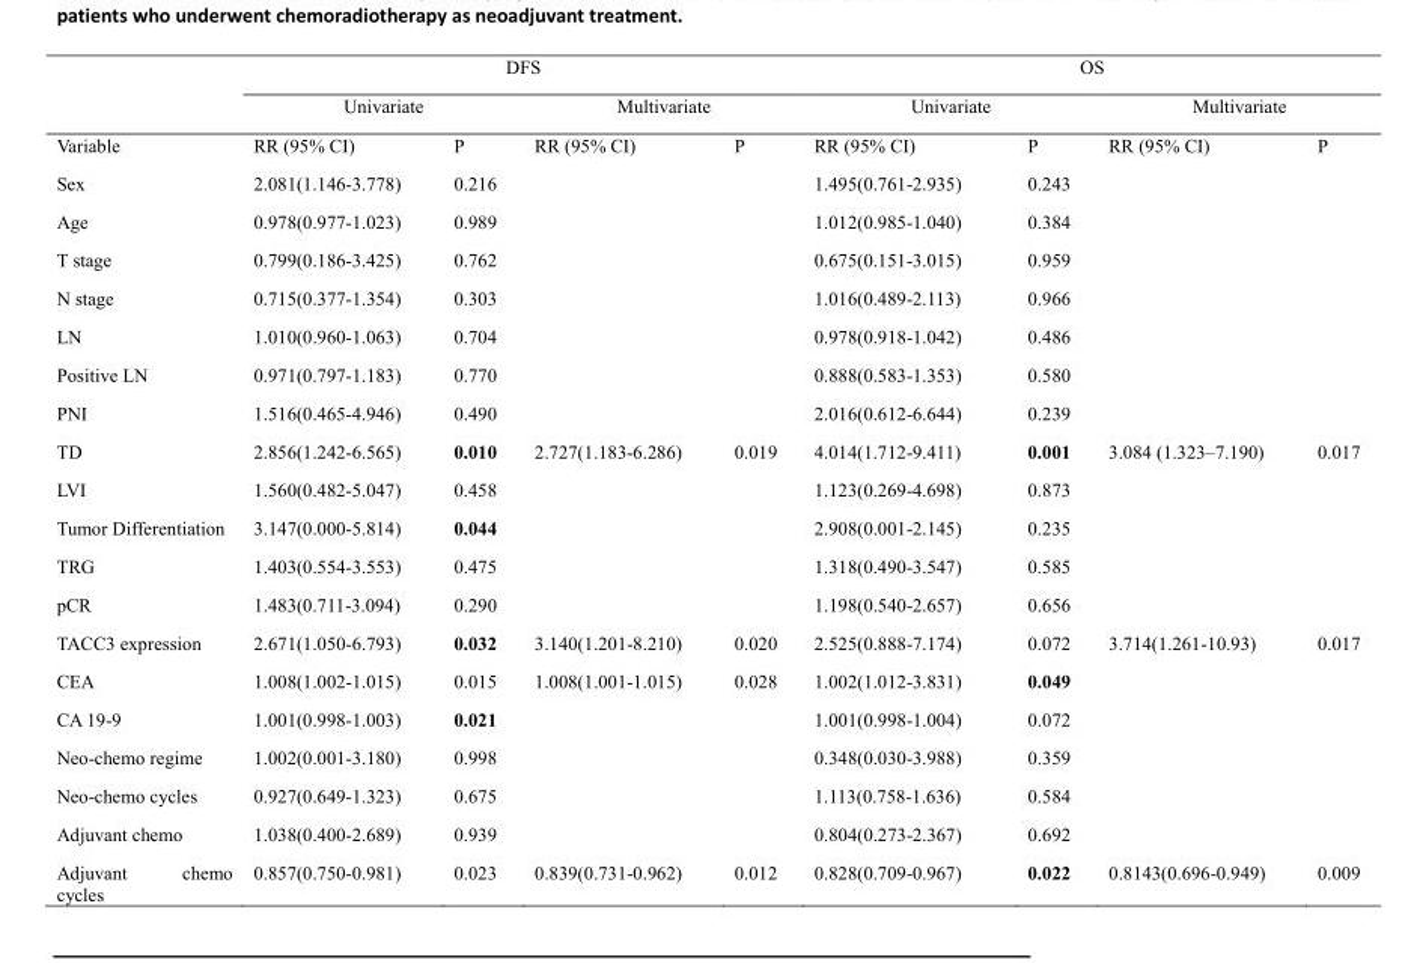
<table><thead><tr><td rowspan="3">Variable</td><td colspan="4">DFS</td><td colspan="4">OS</td></tr><tr><td colspan="2">Univariate</td><td colspan="2">Multivariate</td><td colspan="2">Univariate</td><td colspan="2">Multivariate</td></tr><tr><td>RR (95% CI)</td><td>P</td><td>RR (95% CI)</td><td>P</td><td>RR (95% CI)</td><td>P</td><td>RR (95% CI)</td><td>P</td></tr></thead><tbody><tr><td>Sex</td><td>2.081(1.146-3.778)</td><td>0.216</td><td></td><td></td><td>1.495(0.761-2.935)</td><td>0.243</td><td></td><td></td></tr><tr><td>Age</td><td>0.978(0.977-1.023)</td><td>0.989</td><td></td><td></td><td>1.012(0.985-1.040)</td><td>0.384</td><td></td><td></td></tr><tr><td>T stage</td><td>0.799(0.186-3.425)</td><td>0.762</td><td></td><td></td><td>0.675(0.151-3.015)</td><td>0.959</td><td></td><td></td></tr><tr><td>N stage</td><td>0.715(0.377-1.354)</td><td>0.303</td><td></td><td></td><td>1.016(0.489-2.113)</td><td>0.966</td><td></td><td></td></tr><tr><td>LN</td><td>1.010(0.960-1.063)</td><td>0.704</td><td></td><td></td><td>0.978(0.918-1.042)</td><td>0.486</td><td></td><td></td></tr><tr><td>Positive LN</td><td>0.971(0.797-1.183)</td><td>0.770</td><td></td><td></td><td>0.888(0.583-1.353)</td><td>0.580</td><td></td><td></td></tr><tr><td>PNI</td><td>1.516(0.465-4.946)</td><td>0.490</td><td></td><td></td><td>2.016(0.612-6.644)</td><td>0.239</td><td></td><td></td></tr><tr><td>TD</td><td>2.856(1.242-6.565)</td><td>0.010</td><td>2.727(1.183-6.286)</td><td>0.019</td><td>4.014(1.712-9.411)</td><td>0.001</td><td>3.084 (1.323–7.190)</td><td>0.017</td></tr><tr><td>LVI</td><td>1.560(0.482-5.047)</td><td>0.458</td><td></td><td></td><td>1.123(0.269-4.698)</td><td>0.873</td><td></td><td></td></tr><tr><td>Tumor Differentiation</td><td>3.147(0.000-5.814)</td><td>0.044</td><td></td><td></td><td>2.908(0.001-2.145)</td><td>0.235</td><td></td><td></td></tr><tr><td>TRG</td><td>1.403(0.554-3.553)</td><td>0.475</td><td></td><td></td><td>1.318(0.490-3.547)</td><td>0.585</td><td></td><td></td></tr><tr><td>pCR</td><td>1.483(0.711-3.094)</td><td>0.290</td><td></td><td></td><td>1.198(0.540-2.657)</td><td>0.656</td><td></td><td></td></tr><tr><td>TACC3 expression</td><td>2.671(1.050-6.793)</td><td>0.032</td><td>3.140(1.201-8.210)</td><td>0.020</td><td>2.525(0.888-7.174)</td><td>0.072</td><td>3.714(1.261-10.93)</td><td>0.017</td></tr><tr><td>CEA</td><td>1.008(1.002-1.015)</td><td>0.015</td><td>1.008(1.001-1.015)</td><td>0.028</td><td>1.002(1.012-3.831)</td><td>0.049</td><td></td><td></td></tr><tr><td>CA 19-9</td><td>1.001(0.998-1.003)</td><td>0.021</td><td></td><td></td><td>1.001(0.998-1.004)</td><td>0.072</td><td></td><td></td></tr><tr><td>Neo-chemo regime</td><td>1.002(0.001-3.180)</td><td>0.998</td><td></td><td></td><td>0.348(0.030-3.988)</td><td>0.359</td><td></td><td></td></tr><tr><td>Neo-chemo cycles</td><td>0.927(0.649-1.323)</td><td>0.675</td><td></td><td></td><td>1.113(0.758-1.636)</td><td>0.584</td><td></td><td></td></tr><tr><td>Adjuvant chemo</td><td>1.038(0.400-2.689)</td><td>0.939</td><td></td><td></td><td>0.804(0.273-2.367)</td><td>0.692</td><td></td><td></td></tr><tr><td>Adjuvant chemo cycles</td><td>0.857(0.750-0.981)</td><td>0.023</td><td>0.839(0.731-0.962)</td><td>0.012</td><td>0.828(0.709-0.967)</td><td>0.022</td><td>0.8143(0.696-0.949)</td><td>0.009</td></tr></tbody></table>